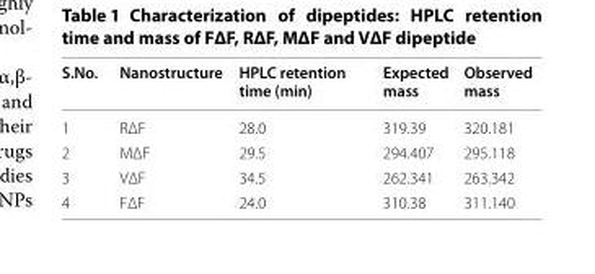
<table><thead><tr><td>S.No.</td><td>Nanostructure</td><td>HPLC retention time (min)</td><td>Expected mass</td><td>Observed mass</td></tr></thead><tbody><tr><td>1</td><td>RΔF</td><td>28.0</td><td>319.39</td><td>320.181</td></tr><tr><td>2</td><td>MΔF</td><td>29.5</td><td>294.407</td><td>295.118</td></tr><tr><td>3</td><td>VΔF</td><td>34.5</td><td>262.341</td><td>263.342</td></tr><tr><td>4</td><td>FΔF</td><td>24.0</td><td>310.38</td><td>311.140</td></tr></tbody></table>